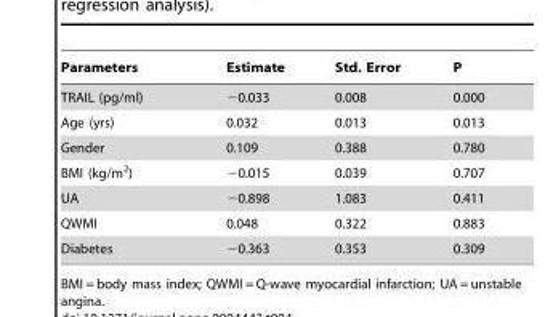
<table><thead><tr><td>Parameters</td><td>Estimate</td><td>Std. Error</td><td>P</td></tr></thead><tbody><tr><td>TRAIL (pg/ml)</td><td>−0.033</td><td>0.008</td><td>0.000</td></tr><tr><td>Age (yrs)</td><td>0.032</td><td>0.013</td><td>0.013</td></tr><tr><td>Gender</td><td>0.109</td><td>0.388</td><td>0.780</td></tr><tr><td>BMI (kg/m<sup>2</sup>)</td><td>−0.015</td><td>0.039</td><td>0.707</td></tr><tr><td>UA</td><td>−0.898</td><td>1.083</td><td>0.411</td></tr><tr><td>QWMI</td><td>0.048</td><td>0.322</td><td>0.883</td></tr><tr><td>Diabetes</td><td>−0.363</td><td>0.353</td><td>0.309</td></tr></tbody></table>